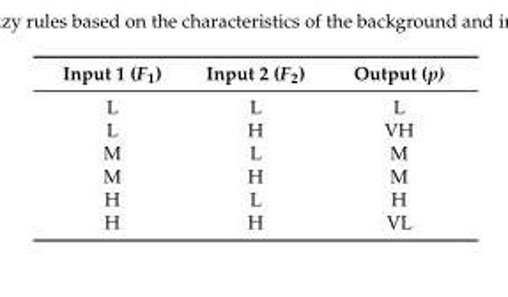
<table><thead><tr><td>Input 1 (F<sub>1</sub>)</td><td>Input 2 (F<sub>2</sub>)</td><td>Output (p)</td></tr></thead><tbody><tr><td>L</td><td>L</td><td>L</td></tr><tr><td>L</td><td>H</td><td>VH</td></tr><tr><td>M</td><td>L</td><td>M</td></tr><tr><td>M</td><td>H</td><td>M</td></tr><tr><td>H</td><td>L</td><td>H</td></tr><tr><td>H</td><td>H</td><td>VL</td></tr></tbody></table>